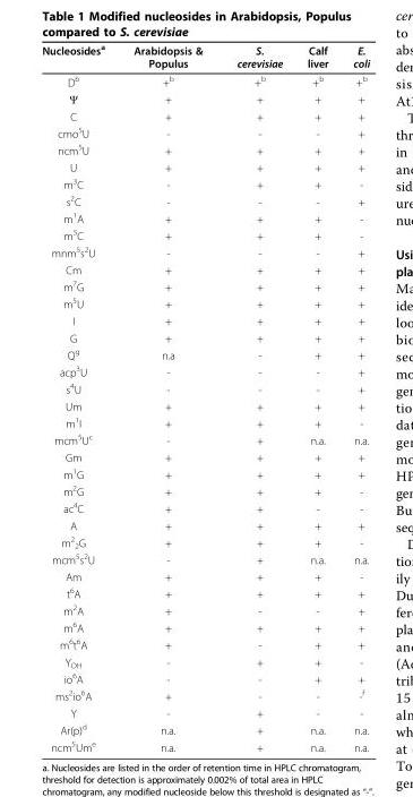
<table><thead><tr><td>Nucleosides<sup>a</sup></td><td>Arabidopsis &amp; Populus</td><td>S. cerevisiae</td><td>Calf liver</td><td>E. coli</td></tr></thead><tbody><tr><td>D<sup>b</sup></td><td>+<sup>b</sup></td><td>+<sup>b</sup></td><td>+<sup>b</sup></td><td>+<sup>b</sup></td></tr><tr><td>Ψ</td><td>+</td><td>+</td><td>+</td><td>+</td></tr><tr><td>C</td><td>+</td><td>+</td><td>+</td><td>+</td></tr><tr><td>cmo<sup>5</sup>U</td><td>-</td><td>-</td><td>-</td><td>+</td></tr><tr><td>ncm<sup>5</sup>U</td><td>+</td><td>+</td><td>+</td><td>+</td></tr><tr><td>U</td><td>+</td><td>+</td><td>+</td><td>+</td></tr><tr><td>m<sup>3</sup>C</td><td>-</td><td>+</td><td>+</td><td>-</td></tr><tr><td>s<sup>2</sup>C</td><td>-</td><td>-</td><td>-</td><td>+</td></tr><tr><td>m<sup>1</sup>A</td><td>+</td><td>+</td><td>+</td><td>-</td></tr><tr><td>m<sup>5</sup>C</td><td>+</td><td>+</td><td>+</td><td>-</td></tr><tr><td>mnm<sup>5</sup>s<sup>2</sup>U</td><td>-</td><td>-</td><td>-</td><td>+</td></tr><tr><td>Cm</td><td>+</td><td>+</td><td>+</td><td>+</td></tr><tr><td>m<sup>7</sup>G</td><td>+</td><td>+</td><td>+</td><td>+</td></tr><tr><td>m<sup>5</sup>U</td><td>+</td><td>+</td><td>+</td><td>+</td></tr><tr><td>I</td><td>+</td><td>+</td><td>+</td><td>+</td></tr><tr><td>G</td><td>+</td><td>+</td><td>+</td><td>+</td></tr><tr><td>Q<sup>g</sup></td><td>n.a</td><td>-</td><td>+</td><td>+</td></tr><tr><td>acp<sup>3</sup>U</td><td>-</td><td>-</td><td>-</td><td>+</td></tr><tr><td>s<sup>4</sup>U</td><td>-</td><td>-</td><td>-</td><td>+</td></tr><tr><td>Um</td><td>+</td><td>+</td><td>+</td><td>+</td></tr><tr><td>m<sup>1</sup>I</td><td>+</td><td>+</td><td>+</td><td>-</td></tr><tr><td>mcm<sup>5</sup>U<sup>c</sup></td><td>-</td><td>+</td><td>n.a.</td><td>n.a.</td></tr><tr><td>Gm</td><td>+</td><td>+</td><td>+</td><td>+</td></tr><tr><td>m<sup>1</sup>G</td><td>+</td><td>+</td><td>+</td><td>+</td></tr><tr><td>m<sup>2</sup>G</td><td>+</td><td>+</td><td>+</td><td>-</td></tr><tr><td>ac<sup>4</sup>C</td><td>+</td><td>+</td><td>-</td><td>-</td></tr><tr><td>A</td><td>+</td><td>+</td><td>+</td><td>+</td></tr><tr><td>m<sup>2</sup> <sub>2</sub>G</td><td>+</td><td>+</td><td>+</td><td>-</td></tr><tr><td>mcm<sup>5</sup>s<sup>2</sup>U</td><td>-</td><td>+</td><td>n.a.</td><td>n.a.</td></tr><tr><td>Am</td><td>+</td><td>+</td><td>+</td><td>-</td></tr><tr><td>t<sup>6</sup>A</td><td>+</td><td>+</td><td>+</td><td>+</td></tr><tr><td>m<sup>2</sup>A</td><td>+</td><td>-</td><td>-</td><td>+</td></tr><tr><td>m<sup>6</sup>A</td><td>+</td><td>+</td><td>+</td><td>+</td></tr><tr><td>m<sup>6</sup>t<sup>6</sup>A</td><td>+</td><td>-</td><td>+</td><td>+</td></tr><tr><td>Y<sub>OH</sub></td><td>-</td><td>+</td><td>+</td><td>-</td></tr><tr><td>io<sup>6</sup>A</td><td>-</td><td>-</td><td>+</td><td>+</td></tr><tr><td>ms<sup>2</sup>io<sup>6</sup>A</td><td>+</td><td>-</td><td>-</td><td>-<sup>f</sup></td></tr><tr><td>Y</td><td>-</td><td>+</td><td>-</td><td>-</td></tr><tr><td>Ar(p)<sup>d</sup></td><td>n.a.</td><td>+</td><td>n.a.</td><td>n.a.</td></tr><tr><td>ncm<sup>5</sup>Um<sup>e</sup></td><td>n.a.</td><td>+</td><td>n.a.</td><td>n.a.</td></tr></tbody></table>